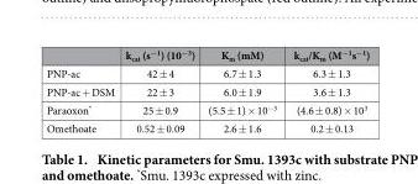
<table><thead><tr><td></td><td>k<sub>cat</sub> (s<sup>−1</sup>) (10<sup>−3</sup>)</td><td>K<sub>m</sub> (mM)</td><td>k<sub>cat</sub>/K<sub>m</sub> (M<sup>−1</sup>s<sup>−1</sup>)</td></tr></thead><tbody><tr><td>PNP-ac</td><td>42 ± 4</td><td>6.7 ± 1.3</td><td>6.3 ± 1.3</td></tr><tr><td>PNP-ac + DSM</td><td>22 ± 3</td><td>6.0 ± 1.9</td><td>3.6 ± 1.3</td></tr><tr><td>Paraoxon*</td><td>25 ± 0.9</td><td>(5.5 ± 1) × 10<sup>−3</sup></td><td>(4.6 ± 0.8) × 10<sup>3</sup></td></tr><tr><td>Omethoate</td><td>0.52 ± 0.09</td><td>2.6 ± 1.6</td><td>0.2 ± 0.13</td></tr></tbody></table>